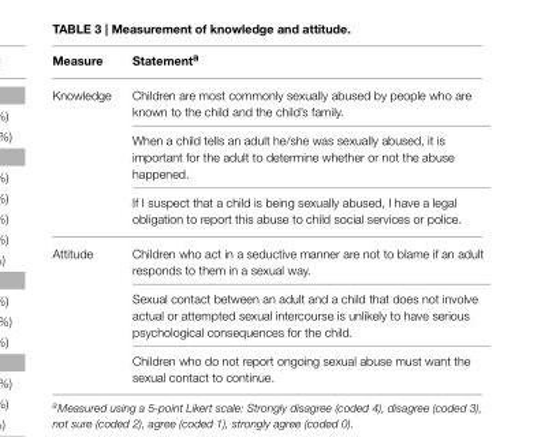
<table><thead><tr><td>Measure</td><td>Statement<sup>a</sup></td></tr></thead><tbody><tr><td rowspan="3">Knowledge</td><td>Children are most commonly sexually abused by people who are known to the child and the child’s family.</td></tr><tr><td>When a child tells an adult he/she was sexually abused, it is important for the adult to determine whether or not the abuse happened.</td></tr><tr><td>If I suspect that a child is being sexually abused, I have a legal obligation to report this abuse to child social services or police.</td></tr><tr><td rowspan="3">Attitude</td><td>Children who act in a seductive manner are not to blame if an adult responds to them in a sexual way.</td></tr><tr><td>Sexual contact between an adult and a child that does not involve actual or attempted sexual intercourse is unlikely to have serious psychological consequences for the child.</td></tr><tr><td>Children who do not report ongoing sexual abuse must want the sexual contact to continue.</td></tr></tbody></table>